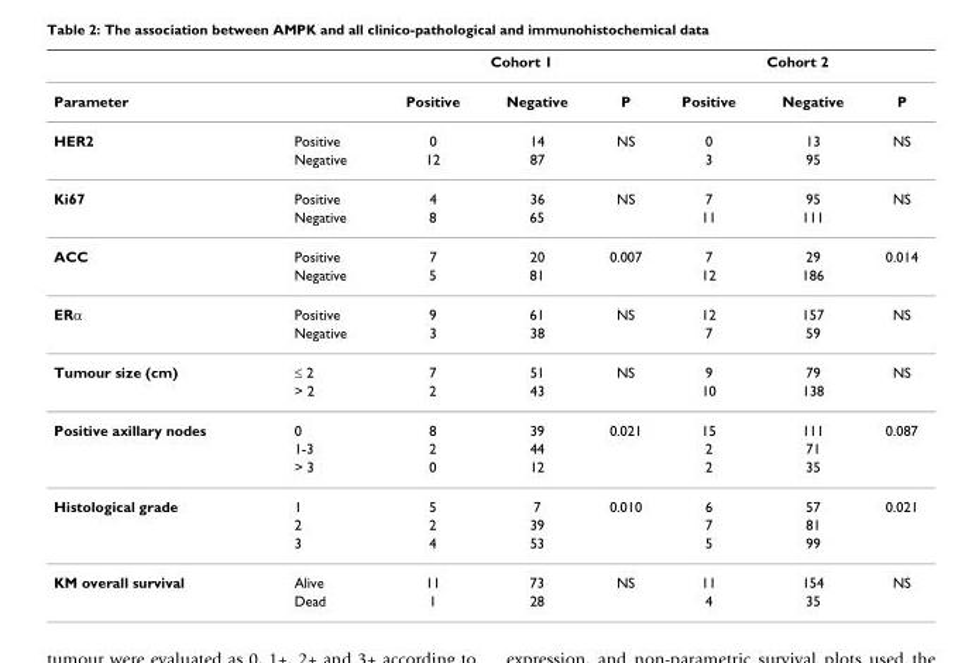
<table><thead><tr><td rowspan="2">Parameter</td><td rowspan="2"></td><td colspan="3">Cohort 1</td><td colspan="3">Cohort 2</td></tr><tr><td>Positive</td><td>Negative</td><td>P</td><td>Positive</td><td>Negative</td><td>P</td></tr></thead><tbody><tr><td rowspan="2">HER2</td><td>Positive</td><td>0</td><td>14</td><td>NS</td><td>0</td><td>13</td><td>NS</td></tr><tr><td>Negative</td><td>12</td><td>87</td><td></td><td>3</td><td>95</td><td></td></tr><tr><td rowspan="2">Ki67</td><td>Positive</td><td>4</td><td>36</td><td>NS</td><td>7</td><td>95</td><td>NS</td></tr><tr><td>Negative</td><td>8</td><td>65</td><td></td><td>11</td><td>111</td><td></td></tr><tr><td rowspan="2">ACC</td><td>Positive</td><td>7</td><td>20</td><td>0.007</td><td>7</td><td>29</td><td>0.014</td></tr><tr><td>Negative</td><td>5</td><td>81</td><td></td><td>12</td><td>186</td><td></td></tr><tr><td rowspan="2">ERα</td><td>Positive</td><td>9</td><td>61</td><td>NS</td><td>12</td><td>157</td><td>NS</td></tr><tr><td>Negative</td><td>3</td><td>38</td><td></td><td>7</td><td>59</td><td></td></tr><tr><td rowspan="2">Tumour size (cm)</td><td>≤ 2</td><td>7</td><td>51</td><td>NS</td><td>9</td><td>79</td><td>NS</td></tr><tr><td>&gt; 2</td><td>2</td><td>43</td><td></td><td>10</td><td>138</td><td></td></tr><tr><td rowspan="3">Positive axillary nodes</td><td>0</td><td>8</td><td>39</td><td>0.021</td><td>15</td><td>111</td><td>0.087</td></tr><tr><td>1-3</td><td>2</td><td>44</td><td></td><td>2</td><td>71</td><td></td></tr><tr><td>&gt; 3</td><td>0</td><td>12</td><td></td><td>2</td><td>35</td><td></td></tr><tr><td rowspan="3">Histological grade</td><td>1</td><td>5</td><td>7</td><td>0.010</td><td>6</td><td>57</td><td>0.021</td></tr><tr><td>2</td><td>2</td><td>39</td><td></td><td>7</td><td>81</td><td></td></tr><tr><td>3</td><td>4</td><td>53</td><td></td><td>5</td><td>99</td><td></td></tr><tr><td rowspan="2">KM overall survival</td><td>Alive</td><td>11</td><td>73</td><td>NS</td><td>11</td><td>154</td><td>NS</td></tr><tr><td>Dead</td><td>1</td><td>28</td><td></td><td>4</td><td>35</td><td></td></tr></tbody></table>